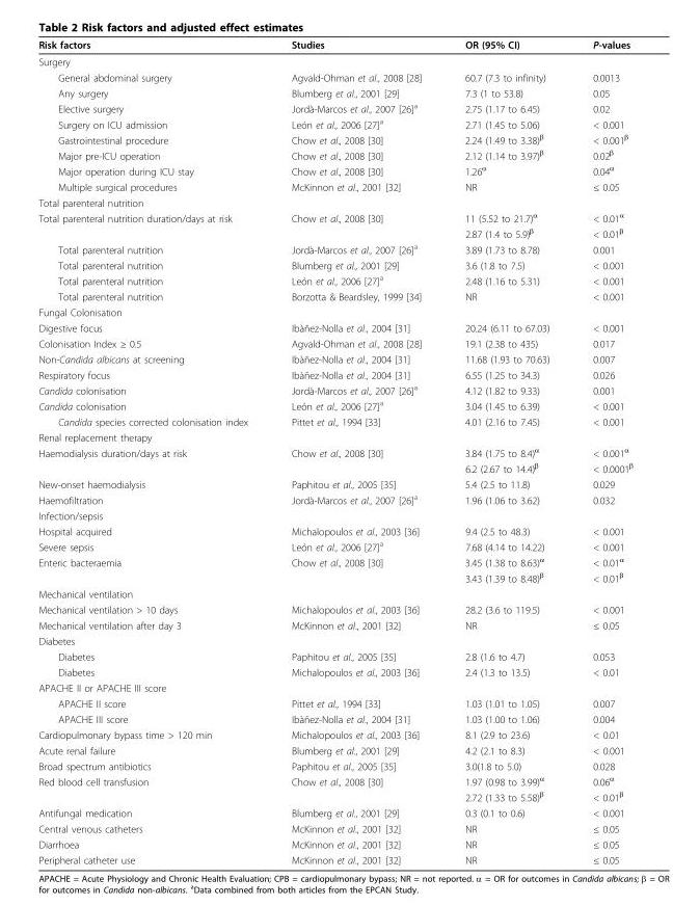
<table><thead><tr><td>Risk factors</td><td>Studies</td><td>OR (95% CI)</td><td>P-values</td></tr></thead><tbody><tr><td colspan="4">Surgery</td></tr><tr><td>General abdominal surgery</td><td>Agvald-Ohman et al., 2008 [28]</td><td>60.7 (7.3 to infinity)</td><td>0.0013</td></tr><tr><td>Any surgery</td><td>Blumberg et al., 2001 [29]</td><td>7.3 (1 to 53.8)</td><td>0.05</td></tr><tr><td>Elective surgery</td><td>Jordà-Marcos et al., 2007 [26]<sup>a</sup></td><td>2.75 (1.17 to 6.45)</td><td>0.02</td></tr><tr><td>Surgery on ICU admission</td><td>León et al., 2006 [27]<sup>a</sup></td><td>2.71 (1.45 to 5.06)</td><td>&lt; 0.001</td></tr><tr><td>Gastrointestinal procedure</td><td>Chow et al., 2008 [30]</td><td>2.24 (1.49 to 3.38)<sup>β</sup></td><td>&lt; 0.001<sup>β</sup></td></tr><tr><td>Major pre-ICU operation</td><td>Chow et al., 2008 [30]</td><td>2.12 (1.14 to 3.97)<sup>β</sup></td><td>0.02<sup>β</sup></td></tr><tr><td>Major operation during ICU stay</td><td>Chow et al., 2008 [30]</td><td>1.26<sup>α</sup></td><td>0.04<sup>α</sup></td></tr><tr><td>Multiple surgical procedures</td><td>McKinnon et al., 2001 [32]</td><td>NR</td><td>≤ 0.05</td></tr><tr><td colspan="4">Total parenteral nutrition</td></tr><tr><td rowspan="2">Total parenteral nutrition duration/days at risk</td><td>Chow et al., 2008 [30]</td><td>11 (5.52 to 21.7)<sup>α</sup></td><td>&lt; 0.01<sup>α</sup></td></tr><tr><td></td><td>2.87 (1.4 to 5.9)<sup>β</sup></td><td>&lt; 0.01<sup>β</sup></td></tr><tr><td>Total parenteral nutrition</td><td>Jordà-Marcos et al., 2007 [26]<sup>a</sup></td><td>3.89 (1.73 to 8.78)</td><td>0.001</td></tr><tr><td>Total parenteral nutrition</td><td>Blumberg et al., 2001 [29]</td><td>3.6 (1.8 to 7.5)</td><td>&lt; 0.001</td></tr><tr><td>Total parenteral nutrition</td><td>León et al., 2006 [27]<sup>a</sup></td><td>2.48 (1.16 to 5.31)</td><td>&lt; 0.001</td></tr><tr><td>Total parenteral nutrition</td><td>Borzotta &amp; Beardsley, 1999 [34]</td><td>NR</td><td>&lt; 0.001</td></tr><tr><td colspan="4">Fungal Colonisation</td></tr><tr><td>Digestive focus</td><td>Ibàñez-Nolla et al., 2004 [31]</td><td>20.24 (6.11 to 67.03)</td><td>&lt; 0.001</td></tr><tr><td>Colonisation Index ≥ 0.5</td><td>Agvald-Ohman et al., 2008 [28]</td><td>19.1 (2.38 to 435)</td><td>0.017</td></tr><tr><td>Non-Candida albicans at screening</td><td>Ibàñez-Nolla et al., 2004 [31]</td><td>11.68 (1.93 to 70.63)</td><td>0.007</td></tr><tr><td>Respiratory focus</td><td>Ibàñez-Nolla et al., 2004 [31]</td><td>6.55 (1.25 to 34.3)</td><td>0.026</td></tr><tr><td>Candida colonisation</td><td>Jordà-Marcos et al., 2007 [26]<sup>a</sup></td><td>4.12 (1.82 to 9.33)</td><td>0.001</td></tr><tr><td>Candida colonisation</td><td>León et al., 2006 [27]<sup>a</sup></td><td>3.04 (1.45 to 6.39)</td><td>&lt; 0.001</td></tr><tr><td>Candida species corrected colonisation index</td><td>Pittet et al., 1994 [33]</td><td>4.01 (2.16 to 7.45)</td><td>&lt; 0.001</td></tr><tr><td colspan="4">Renal replacement therapy</td></tr><tr><td rowspan="2">Haemodialysis duration/days at risk</td><td>Chow et al., 2008 [30]</td><td>3.84 (1.75 to 8.4)<sup>α</sup></td><td>&lt; 0.001<sup>α</sup></td></tr><tr><td></td><td>6.2 (2.67 to 14.4)<sup>β</sup></td><td>&lt; 0.0001<sup>β</sup></td></tr><tr><td>New-onset haemodialysis</td><td>Paphitou et al., 2005 [35]</td><td>5.4 (2.5 to 11.8)</td><td>0.029</td></tr><tr><td>Haemofiltration</td><td>Jordà-Marcos et al., 2007 [26]<sup>a</sup></td><td>1.96 (1.06 to 3.62)</td><td>0.032</td></tr><tr><td colspan="4">Infection/sepsis</td></tr><tr><td>Hospital acquired</td><td>Michalopoulos et al., 2003 [36]</td><td>9.4 (2.5 to 48.3)</td><td>&lt; 0.001</td></tr><tr><td>Severe sepsis</td><td>León et al., 2006 [27]<sup>a</sup></td><td>7.68 (4.14 to 14.22)</td><td>&lt; 0.001</td></tr><tr><td rowspan="2">Enteric bacteraemia</td><td>Chow et al., 2008 [30]</td><td>3.45 (1.38 to 8.63)<sup>α</sup></td><td>&lt; 0.01<sup>α</sup></td></tr><tr><td></td><td>3.43 (1.39 to 8.48)<sup>β</sup></td><td>&lt; 0.01<sup>β</sup></td></tr><tr><td colspan="4">Mechanical ventilation</td></tr><tr><td>Mechanical ventilation &gt; 10 days</td><td>Michalopoulos et al., 2003 [36]</td><td>28.2 (3.6 to 119.5)</td><td>&lt; 0.001</td></tr><tr><td>Mechanical ventilation after day 3</td><td>McKinnon et al., 2001 [32]</td><td>NR</td><td>≤ 0.05</td></tr><tr><td colspan="4">Diabetes</td></tr><tr><td>Diabetes</td><td>Paphitou et al., 2005 [35]</td><td>2.8 (1.6 to 4.7)</td><td>0.053</td></tr><tr><td>Diabetes</td><td>Michalopoulos et al., 2003 [36]</td><td>2.4 (1.3 to 13.5)</td><td>&lt; 0.01</td></tr><tr><td colspan="4">APACHE II or APACHE III score</td></tr><tr><td>APACHE II score</td><td>Pittet et al., 1994 [33]</td><td>1.03 (1.01 to 1.05)</td><td>0.007</td></tr><tr><td>APACHE III score</td><td>Ibàñez-Nolla et al., 2004 [31]</td><td>1.03 (1.00 to 1.06)</td><td>0.004</td></tr><tr><td>Cardiopulmonary bypass time &gt; 120 min</td><td>Michalopoulos et al., 2003 [36]</td><td>8.1 (2.9 to 23.6)</td><td>&lt; 0.01</td></tr><tr><td>Acute renal failure</td><td>Blumberg et al., 2001 [29]</td><td>4.2 (2.1 to 8.3)</td><td>&lt; 0.001</td></tr><tr><td>Broad spectrum antibiotics</td><td>Paphitou et al., 2005 [35]</td><td>3.0(1.8 to 5.0)</td><td>0.028</td></tr><tr><td rowspan="2">Red blood cell transfusion</td><td>Chow et al., 2008 [30]</td><td>1.97 (0.98 to 3.99)<sup>α</sup></td><td>0.06<sup>α</sup></td></tr><tr><td></td><td>2.72 (1.33 to 5.58)<sup>β</sup></td><td>&lt; 0.01<sup>β</sup></td></tr><tr><td>Antifungal medication</td><td>Blumberg et al., 2001 [29]</td><td>0.3 (0.1 to 0.6)</td><td>&lt; 0.001</td></tr><tr><td>Central venous catheters</td><td>McKinnon et al., 2001 [32]</td><td>NR</td><td>≤ 0.05</td></tr><tr><td>Diarrhoea</td><td>McKinnon et al., 2001 [32]</td><td>NR</td><td>≤ 0.05</td></tr><tr><td>Peripheral catheter use</td><td>McKinnon et al., 2001 [32]</td><td>NR</td><td>≤ 0.05</td></tr></tbody></table>